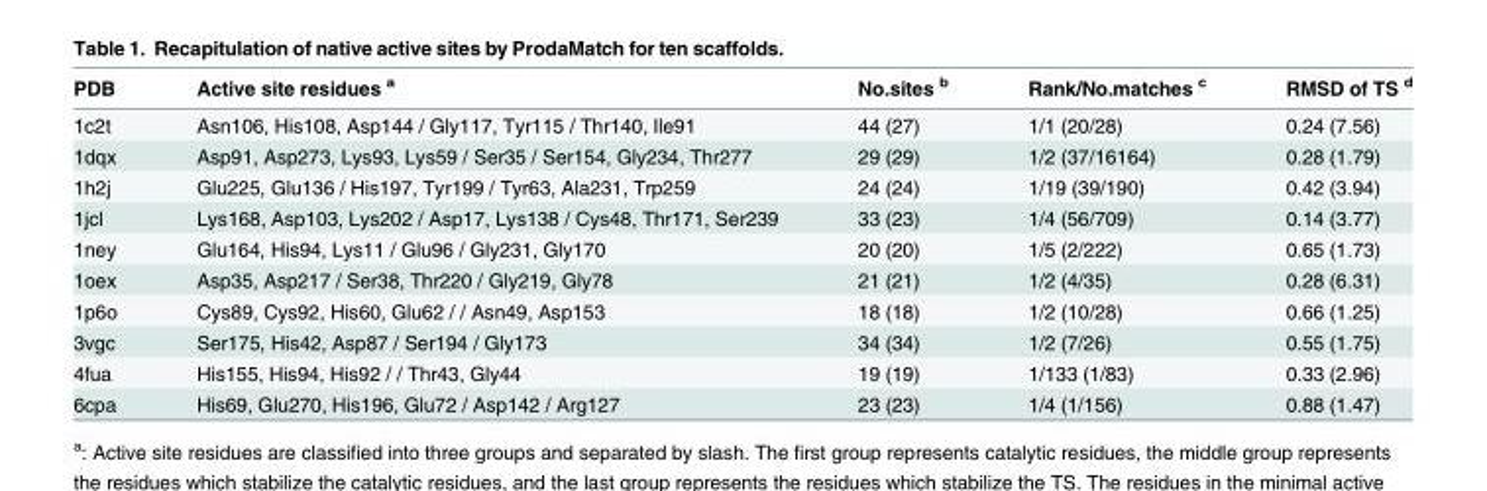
<table><thead><tr><td>PDB</td><td>Active site residues <sup>a</sup></td><td>No.sites <sup>b</sup></td><td>Rank/No.matches <sup>c</sup></td><td>RMSD of TS <sup>d</sup></td></tr></thead><tbody><tr><td>1c2t</td><td>Asn106, His108, Asp144 / Gly117, Tyr115 / Thr140, Ile91</td><td>44 (27)</td><td>1/1 (20/28)</td><td>0.24 (7.56)</td></tr><tr><td>1dqx</td><td>Asp91, Asp273, Lys93, Lys59 / Ser35 / Ser154, Gly234, Thr277</td><td>29 (29)</td><td>1/2 (37/16164)</td><td>0.28 (1.79)</td></tr><tr><td>1h2j</td><td>Glu225, Glu136 / His197, Tyr199 / Tyr63, Ala231, Trp259</td><td>24 (24)</td><td>1/19 (39/190)</td><td>0.42 (3.94)</td></tr><tr><td>1jcl</td><td>Lys168, Asp103, Lys202 / Asp17, Lys138 / Cys48, Thr171, Ser239</td><td>33 (23)</td><td>1/4 (56/709)</td><td>0.14 (3.77)</td></tr><tr><td>1ney</td><td>Glu164, His94, Lys11 / Glu96 / Gly231, Gly170</td><td>20 (20)</td><td>1/5 (2/222)</td><td>0.65 (1.73)</td></tr><tr><td>1oex</td><td>Asp35, Asp217 / Ser38, Thr220 / Gly219, Gly78</td><td>21 (21)</td><td>1/2 (4/35)</td><td>0.28 (6.31)</td></tr><tr><td>1p6o</td><td>Cys89, Cys92, His60, Glu62 / / Asn49, Asp153</td><td>18 (18)</td><td>1/2 (10/28)</td><td>0.66 (1.25)</td></tr><tr><td>3vgc</td><td>Ser175, His42, Asp87 / Ser194 / Gly173</td><td>34 (34)</td><td>1/2 (7/26)</td><td>0.55 (1.75)</td></tr><tr><td>4fua</td><td>His155, His94, His92 / / Thr43, Gly44</td><td>19 (19)</td><td>1/133 (1/83)</td><td>0.33 (2.96)</td></tr><tr><td>6cpa</td><td>His69, Glu270, His196, Glu72 / Asp142 / Arg127</td><td>23 (23)</td><td>1/4 (1/156)</td><td>0.88 (1.47)</td></tr></tbody></table>